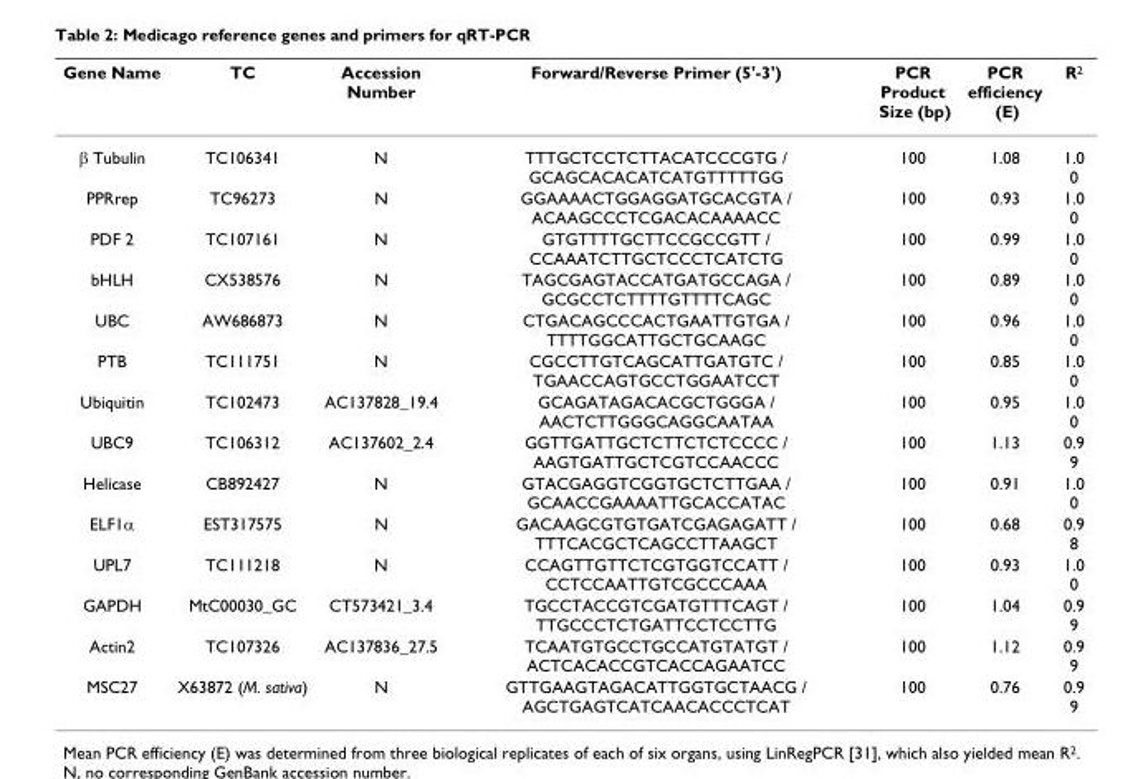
<table><thead><tr><td>Gene Name</td><td>TC</td><td>Accession Number</td><td>Forward/Reverse Primer (5&#x27;-3&#x27;)</td><td>PCR Product Size (bp)</td><td>PCR efficiency (E)</td><td>R<sup>2</sup></td></tr></thead><tbody><tr><td>β Tubulin</td><td>TC106341</td><td>N</td><td>TTTGCTCCTCTTACATCCCGTG / GCAGCACACATCATGTTTTTGG</td><td>100</td><td>1.08</td><td>1.0 0</td></tr><tr><td>PPRrep</td><td>TC96273</td><td>N</td><td>GGAAAACTGGAGGATGCACGTA / ACAAGCCCTCGACACAAAACC</td><td>100</td><td>0.93</td><td>1.0 0</td></tr><tr><td>PDF 2</td><td>TC107161</td><td>N</td><td>GTGTTTTGCTTCCGCCGTT / CCAAATCTTGCTCCCTCATCTG</td><td>100</td><td>0.99</td><td>1.0 0</td></tr><tr><td>bHLH</td><td>CX538576</td><td>N</td><td>TAGCGAGTACCATGATGCCAGA / GCGCCTCTTTTGTTTTCAGC</td><td>100</td><td>0.89</td><td>1.0 0</td></tr><tr><td>UBC</td><td>AW686873</td><td>N</td><td>CTGACAGCCCACTGAATTGTGA / TTTTGGCATTGCTGCAAGC</td><td>100</td><td>0.96</td><td>1.0 0</td></tr><tr><td>PTB</td><td>TC111751</td><td>N</td><td>CGCCTTGTCAGCATTGATGTC / TGAACCAGTGCCTGGAATCCT</td><td>100</td><td>0.85</td><td>1.0 0</td></tr><tr><td>Ubiquitin</td><td>TC102473</td><td>AC137828_19.4</td><td>GCAGATAGACACGCTGGGA / AACTCTTGGGCAGGCAATAA</td><td>100</td><td>0.95</td><td>1.0 0</td></tr><tr><td>UBC9</td><td>TC106312</td><td>AC137602_2.4</td><td>GGTTGATTGCTCTTCTCTCCCC / AAGTGATTGCTCGTCCAACCC</td><td>100</td><td>1.13</td><td>0.9 9</td></tr><tr><td>Helicase</td><td>CB892427</td><td>N</td><td>GTACGAGGTCGGTGCTCTTGAA / GCAACCGAAAATTGCACCATAC</td><td>100</td><td>0.91</td><td>1.0 0</td></tr><tr><td>ELF1α</td><td>EST317575</td><td>N</td><td>GACAAGCGTGTGATCGAGAGATT / TTTCACGCTCAGCCTTAAGCT</td><td>100</td><td>0.68</td><td>0.9 8</td></tr><tr><td>UPL7</td><td>TC111218</td><td>N</td><td>CCAGTTGTTCTCGTGGTCCATT / CCTCCAATTGTCGCCCAAA</td><td>100</td><td>0.93</td><td>1.0 0</td></tr><tr><td>GAPDH</td><td>MtC00030_GC</td><td>CT573421_3.4</td><td>TGCCTACCGTCGATGTTTCAGT / TTGCCCTCTGATTCCTCCTTG</td><td>100</td><td>1.04</td><td>0.9 9</td></tr><tr><td>Actin2</td><td>TC107326</td><td>AC137836_27.5</td><td>TCAATGTGCCTGCCATGTATGT / ACTCACACCGTCACCAGAATCC</td><td>100</td><td>1.12</td><td>0.9 9</td></tr><tr><td>MSC27</td><td>X63872 (M. sativa)</td><td>N</td><td>GTTGAAGTAGACATTGGTGCTAACG / AGCTGAGTCATCAACACCCTCAT</td><td>100</td><td>0.76</td><td>0.9 9</td></tr></tbody></table>